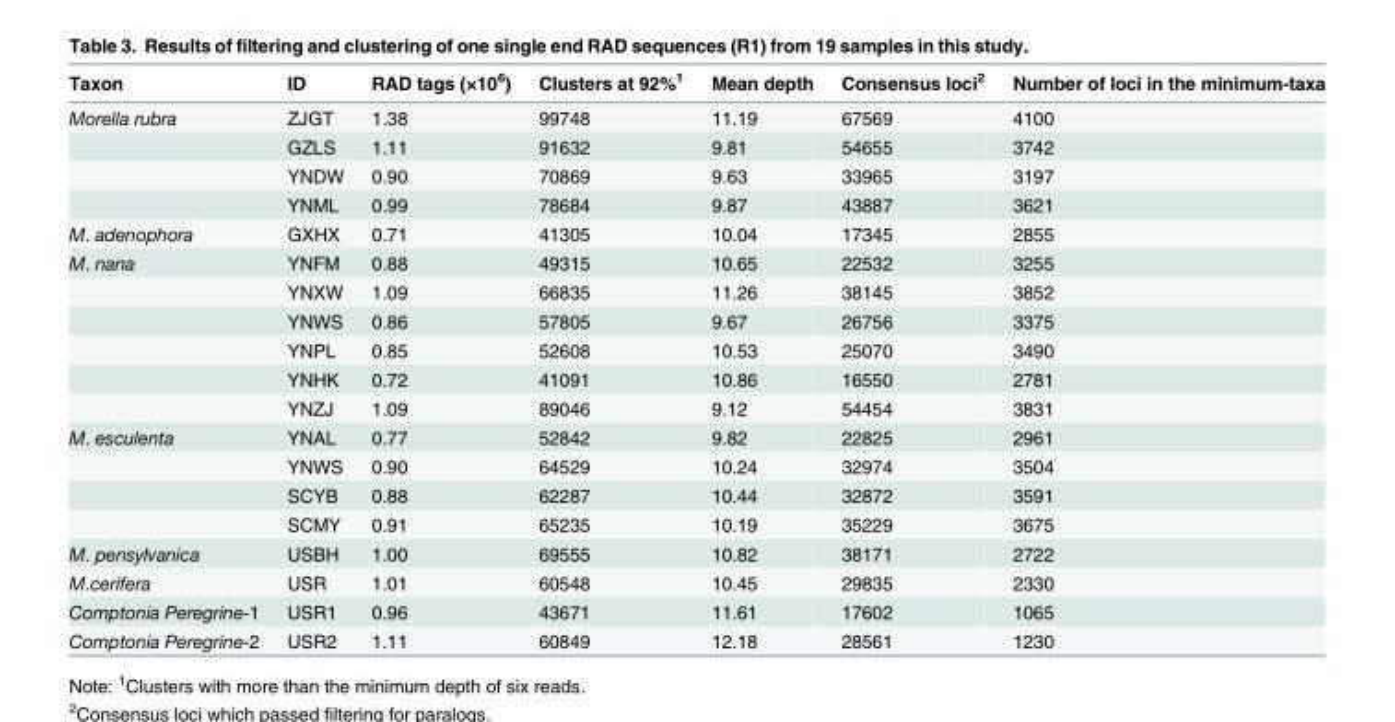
<table><thead><tr><td>Taxon</td><td>ID</td><td>RAD tags (×10<sup>6</sup>)</td><td>Clusters at 92%<sup>1</sup></td><td>Mean depth</td><td>Consensus loci<sup>2</sup></td><td>Number of loci in the minimum-taxa</td></tr></thead><tbody><tr><td rowspan="4">Morella rubra</td><td>ZJGT</td><td>1.38</td><td>99748</td><td>11.19</td><td>67569</td><td>4100</td></tr><tr><td>GZLS</td><td>1.11</td><td>91632</td><td>9.81</td><td>54655</td><td>3742</td></tr><tr><td>YNDW</td><td>0.90</td><td>70869</td><td>9.63</td><td>33965</td><td>3197</td></tr><tr><td>YNML</td><td>0.99</td><td>78684</td><td>9.87</td><td>43887</td><td>3621</td></tr><tr><td>M. adenophora</td><td>GXHX</td><td>0.71</td><td>41305</td><td>10.04</td><td>17345</td><td>2855</td></tr><tr><td rowspan="6">M. nana</td><td>YNFM</td><td>0.88</td><td>49315</td><td>10.65</td><td>22532</td><td>3255</td></tr><tr><td>YNXW</td><td>1.09</td><td>66835</td><td>11.26</td><td>38145</td><td>3852</td></tr><tr><td>YNWS</td><td>0.86</td><td>57805</td><td>9.67</td><td>26756</td><td>3375</td></tr><tr><td>YNPL</td><td>0.85</td><td>52608</td><td>10.53</td><td>25070</td><td>3490</td></tr><tr><td>YNHK</td><td>0.72</td><td>41091</td><td>10.86</td><td>16550</td><td>2781</td></tr><tr><td>YNZJ</td><td>1.09</td><td>89046</td><td>9.12</td><td>54454</td><td>3831</td></tr><tr><td rowspan="4">M. esculenta</td><td>YNAL</td><td>0.77</td><td>52842</td><td>9.82</td><td>22825</td><td>2961</td></tr><tr><td>YNWS</td><td>0.90</td><td>64529</td><td>10.24</td><td>32974</td><td>3504</td></tr><tr><td>SCYB</td><td>0.88</td><td>62287</td><td>10.44</td><td>32872</td><td>3591</td></tr><tr><td>SCMY</td><td>0.91</td><td>65235</td><td>10.19</td><td>35229</td><td>3675</td></tr><tr><td>M. pensylvanica</td><td>USBH</td><td>1.00</td><td>69555</td><td>10.82</td><td>38171</td><td>2722</td></tr><tr><td>M.cerifera</td><td>USR</td><td>1.01</td><td>60548</td><td>10.45</td><td>29835</td><td>2330</td></tr><tr><td>Comptonia Peregrine-1</td><td>USR1</td><td>0.96</td><td>43671</td><td>11.61</td><td>17602</td><td>1065</td></tr><tr><td>Comptonia Peregrine-2</td><td>USR2</td><td>1.11</td><td>60849</td><td>12.18</td><td>28561</td><td>1230</td></tr></tbody></table>